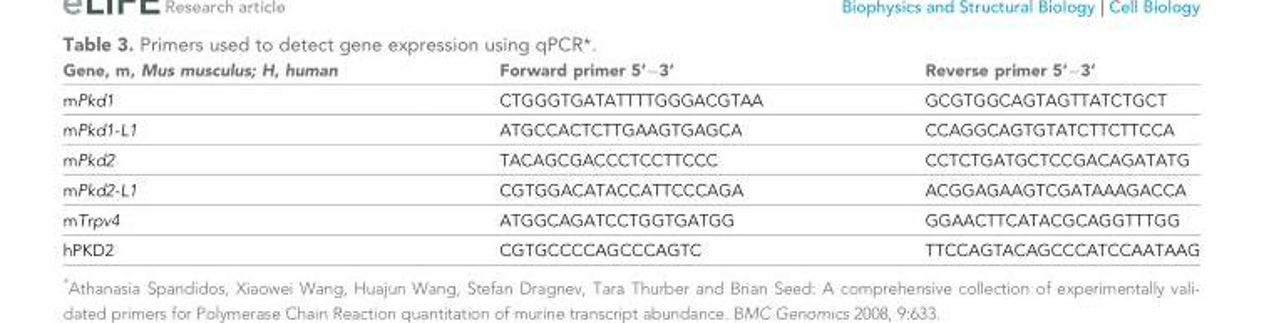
<table><thead><tr><td>Gene, m, Mus musculus; H, human</td><td>Forward primer 5’−3’</td><td>Reverse primer 5’−3’</td></tr></thead><tbody><tr><td>mPkd1</td><td>CTGGGTGATATTTTGGGACGTAA</td><td>GCGTGGCAGTAGTTATCTGCT</td></tr><tr><td>mPkd1-L1</td><td>ATGCCACTCTTGAAGTGAGCA</td><td>CCAGGCAGTGTATCTTCTTCCA</td></tr><tr><td>mPkd2</td><td>TACAGCGACCCTCCTTCCC</td><td>CCTCTGATGCTCCGACAGATATG</td></tr><tr><td>mPkd2-L1</td><td>CGTGGACATACCATTCCCAGA</td><td>ACGGAGAAGTCGATAAAGACCA</td></tr><tr><td>mTrpv4</td><td>ATGGCAGATCCTGGTGATGG</td><td>GGAACTTCATACGCAGGTTTGG</td></tr><tr><td>hPKD2</td><td>CGTGCCCCAGCCCAGTC</td><td>TTCCAGTACAGCCCATCCAATAAG</td></tr></tbody></table>